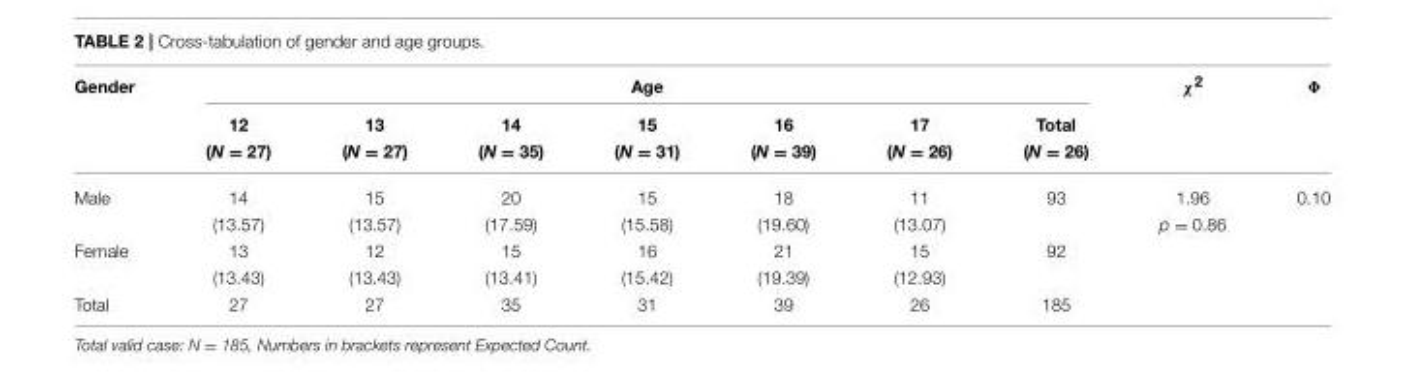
<table><thead><tr><td rowspan="3">Gender</td><td colspan="7">Age</td><td rowspan="3">χ<sup>2</sup></td><td rowspan="3">Φ</td></tr><tr><td rowspan="2">12 (N = 27)</td><td rowspan="2">13 (N = 27)</td><td rowspan="2">14 (N = 35)</td><td rowspan="2">15 (N = 31)</td><td rowspan="2">16 (N = 39)</td><td rowspan="2">17 (N = 26)</td><td rowspan="2">Total (N = 26)</td></tr><tr></tr></thead><tbody><tr><td rowspan="2">Male</td><td>14</td><td>15</td><td>20</td><td>15</td><td>18</td><td>11</td><td>93</td><td>1.96</td><td>0.10</td></tr><tr><td>(13.57)</td><td>(13.57)</td><td>(17.59)</td><td>(15.58)</td><td>(19.60)</td><td>(13.07)</td><td></td><td>p = 0.86</td><td></td></tr><tr><td rowspan="2">Female</td><td>13</td><td>12</td><td>15</td><td>16</td><td>21</td><td>15</td><td>92</td><td></td><td></td></tr><tr><td>(13.43)</td><td>(13.43)</td><td>(13.41)</td><td>(15.42)</td><td>(19.39)</td><td>(12.93)</td><td></td><td></td><td></td></tr><tr><td>Total</td><td>27</td><td>27</td><td>35</td><td>31</td><td>39</td><td>26</td><td>185</td><td></td><td></td></tr></tbody></table>